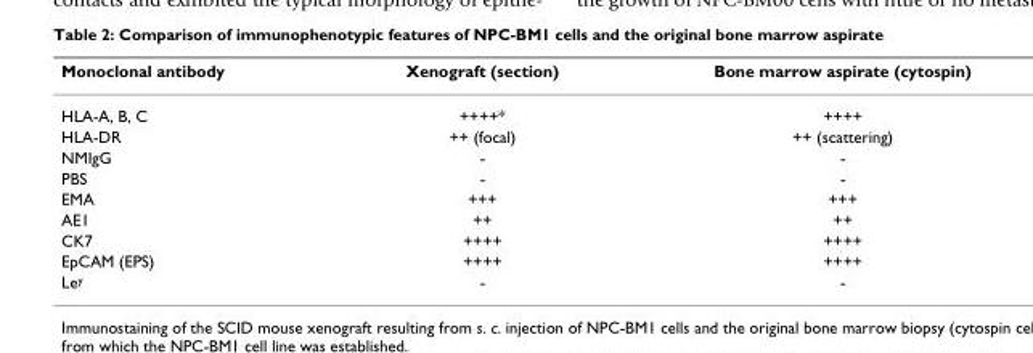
<table><thead><tr><td>Monoclonal antibody</td><td>Xenograft (section)</td><td>Bone marrow aspirate (cytospin)</td></tr></thead><tbody><tr><td>HLA-A, B, C</td><td>++++*</td><td>++++</td></tr><tr><td>HLA-DR</td><td>++ (focal)</td><td>++ (scattering)</td></tr><tr><td>NMIgG</td><td>-</td><td>-</td></tr><tr><td>PBS</td><td>-</td><td>-</td></tr><tr><td>EMA</td><td>+++</td><td>+++</td></tr><tr><td>AE1</td><td>++</td><td>++</td></tr><tr><td>CK7</td><td>++++</td><td>++++</td></tr><tr><td>EpCAM (EPS)</td><td>++++</td><td>++++</td></tr><tr><td>Le<sup>y</sup></td><td>-</td><td>-</td></tr></tbody></table>